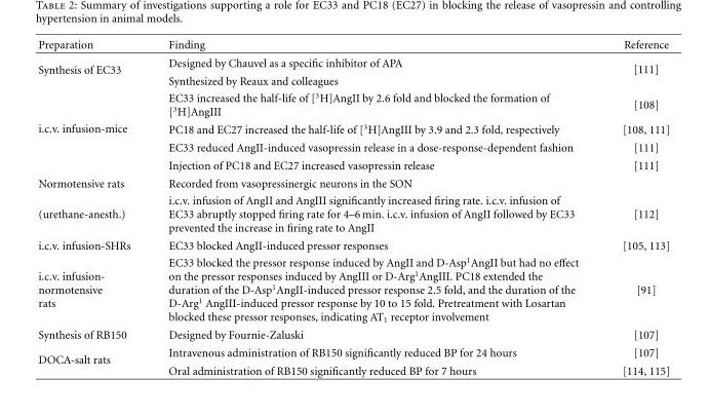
<table><thead><tr><td>Preparation</td><td>Finding</td><td>Reference</td></tr></thead><tbody><tr><td rowspan="2">Synthesis of EC33</td><td>Designed by Chauvel as a specific inhibitor of APA</td><td rowspan="2">[111]</td></tr><tr><td>Synthesized by Reaux and colleagues</td></tr><tr><td rowspan="4">i.c.v. infusion-mice</td><td>EC33 increased the half-life of [<sup>3</sup>H]AngII by 2.6 fold and blocked the formation of [<sup>3</sup>H]AngIII</td><td>[108]</td></tr><tr><td>PC18 and EC27 increased the half-life of [<sup>3</sup>H]AngIII by 3.9 and 2.3 fold, respectively</td><td>[108, 111]</td></tr><tr><td>EC33 reduced AngII-induced vasopressin release in a dose-response-dependent fashion</td><td>[111]</td></tr><tr><td>Injection of PC18 and EC27 increased vasopressin release</td><td>[111]</td></tr><tr><td>Normotensive rats</td><td>Recorded from vasopressinergic neurons in the SON</td><td></td></tr><tr><td>(urethane-anesth.)</td><td>i.c.v. infusion of AngII and AngIII significantly increased firing rate. i.c.v. infusion of EC33 abruptly stopped firing rate for 4–6 min. i.c.v. infusion of AngII followed by EC33 prevented the increase in firing rate to AngII</td><td>[112]</td></tr><tr><td>i.c.v. infusion-SHRs</td><td>EC33 blocked AngII-induced pressor responses</td><td>[105, 113]</td></tr><tr><td>i.c.v. infusion- normotensive rats</td><td>EC33 blocked the pressor response induced by AngII and D-Asp<sup>1</sup>AngII but had no effect on the pressor responses induced by AngIII or D-Arg<sup>1</sup>AngIII. PC18 extended the duration of the D-Asp<sup>1</sup>AngII-induced pressor response 2.5 fold, and the duration of the D-Arg<sup>1</sup> AngIII-induced pressor response by 10 to 15 fold. Pretreatment with Losartan blocked these pressor responses, indicating AT<sub>1</sub> receptor involvement</td><td>[91]</td></tr><tr><td>Synthesis of RB150</td><td>Designed by Fournie-Zaluski</td><td>[107]</td></tr><tr><td rowspan="2">DOCA-salt rats</td><td>Intravenous administration of RB150 significantly reduced BP for 24 hours</td><td>[107]</td></tr><tr><td>Oral administration of RB150 significantly reduced BP for 7 hours</td><td>[114, 115]</td></tr></tbody></table>